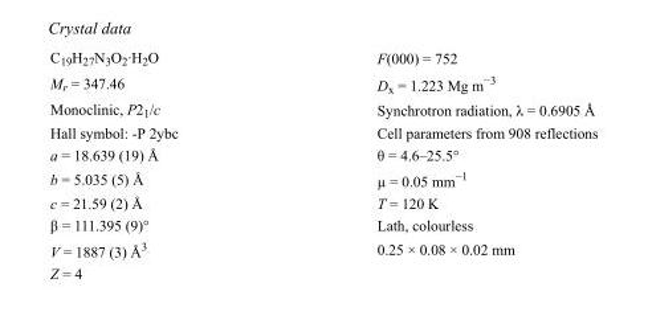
<table><tbody><tr><td>C<sub>19</sub>H<sub>27</sub>N<sub>3</sub>O<sub>2</sub>·H<sub>2</sub>O</td><td>F(000) = 752</td></tr><tr><td>M<sub>r</sub> = 347.46</td><td>D<sub>x</sub> = 1.223 Mg m<sup>−3</sup></td></tr><tr><td>Monoclinic, P2<sub>1</sub>/c</td><td>Synchrotron radiation, λ = 0.6905 Å</td></tr><tr><td>Hall symbol: -P 2ybc</td><td>Cell parameters from 908 reflections</td></tr><tr><td>a = 18.639 (19) Å</td><td>θ = 4.6–25.5°</td></tr><tr><td>b = 5.035 (5) Å</td><td>µ = 0.05 mm<sup>−1</sup></td></tr><tr><td>c = 21.59 (2) Å</td><td>T = 120 K</td></tr><tr><td>β = 111.395 (9)°</td><td>Lath, colourless</td></tr><tr><td>V = 1887 (3) Å<sup>3</sup></td><td>0.25 × 0.08 × 0.02 mm</td></tr><tr><td>Z = 4</td><td></td></tr></tbody></table>